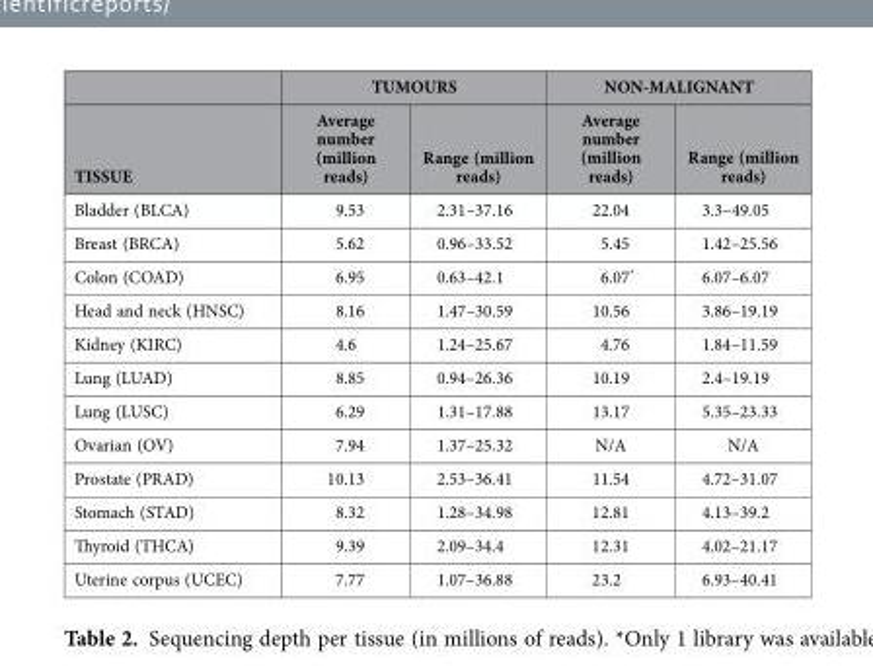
<table><thead><tr><td rowspan="2">TISSUE</td><td colspan="2">TUMOURS</td><td colspan="2">NON-MALIGNANT</td></tr><tr><td>Average number (million reads)</td><td>Range (million reads)</td><td>Average number (million reads)</td><td>Range (million reads)</td></tr></thead><tbody><tr><td>Bladder (BLCA)</td><td>9.53</td><td>2.31–37.16</td><td>22.04</td><td>3.3–49.05</td></tr><tr><td>Breast (BRCA)</td><td>5.62</td><td>0.96–33.52</td><td>5.45</td><td>1.42–25.56</td></tr><tr><td>Colon (COAD)</td><td>6.95</td><td>0.63–42.1</td><td>6.07*</td><td>6.07–6.07</td></tr><tr><td>Head and neck (HNSC)</td><td>8.16</td><td>1.47–30.59</td><td>10.56</td><td>3.86–19.19</td></tr><tr><td>Kidney (KIRC)</td><td>4.6</td><td>1.24–25.67</td><td>4.76</td><td>1.84–11.59</td></tr><tr><td>Lung (LUAD)</td><td>8.85</td><td>0.94–26.36</td><td>10.19</td><td>2.4–19.19</td></tr><tr><td>Lung (LUSC)</td><td>6.29</td><td>1.31–17.88</td><td>13.17</td><td>5.35–23.33</td></tr><tr><td>Ovarian (OV)</td><td>7.94</td><td>1.37–25.32</td><td>N/A</td><td>N/A</td></tr><tr><td>Prostate (PRAD)</td><td>10.13</td><td>2.53–36.41</td><td>11.54</td><td>4.72–31.07</td></tr><tr><td>Stomach (STAD)</td><td>8.32</td><td>1.28–34.98</td><td>12.81</td><td>4.13–39.2</td></tr><tr><td>Thyroid (THCA)</td><td>9.39</td><td>2.09–34.4</td><td>12.31</td><td>4.02–21.17</td></tr><tr><td>Uterine corpus (UCEC)</td><td>7.77</td><td>1.07–36.88</td><td>23.2</td><td>6.93–40.41</td></tr></tbody></table>